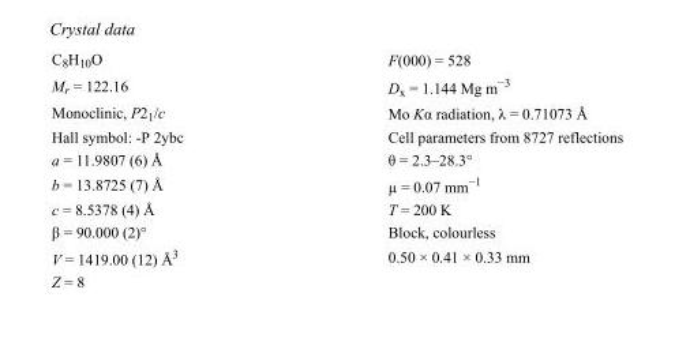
<table><tbody><tr><td>C<sub>8</sub>H<sub>10</sub>O</td><td>F(000) = 528</td></tr><tr><td>M<sub>r</sub> = 122.16</td><td>D<sub>x</sub> = 1.144 Mg m<sup>−3</sup></td></tr><tr><td>Monoclinic, P2<sub>1</sub>/c</td><td>Mo Kα radiation, λ = 0.71073 Å</td></tr><tr><td>Hall symbol: -P 2ybc</td><td>Cell parameters from 8727 reflections</td></tr><tr><td>a = 11.9807 (6) Å</td><td>θ = 2.3–28.3°</td></tr><tr><td>b = 13.8725 (7) Å</td><td>µ = 0.07 mm<sup>−1</sup></td></tr><tr><td>c = 8.5378 (4) Å</td><td>T = 200 K</td></tr><tr><td>β = 90.000 (2)°</td><td>Block, colourless</td></tr><tr><td>V = 1419.00 (12) Å<sup>3</sup></td><td>0.50 × 0.41 × 0.33 mm</td></tr><tr><td>Z = 8</td><td></td></tr></tbody></table>